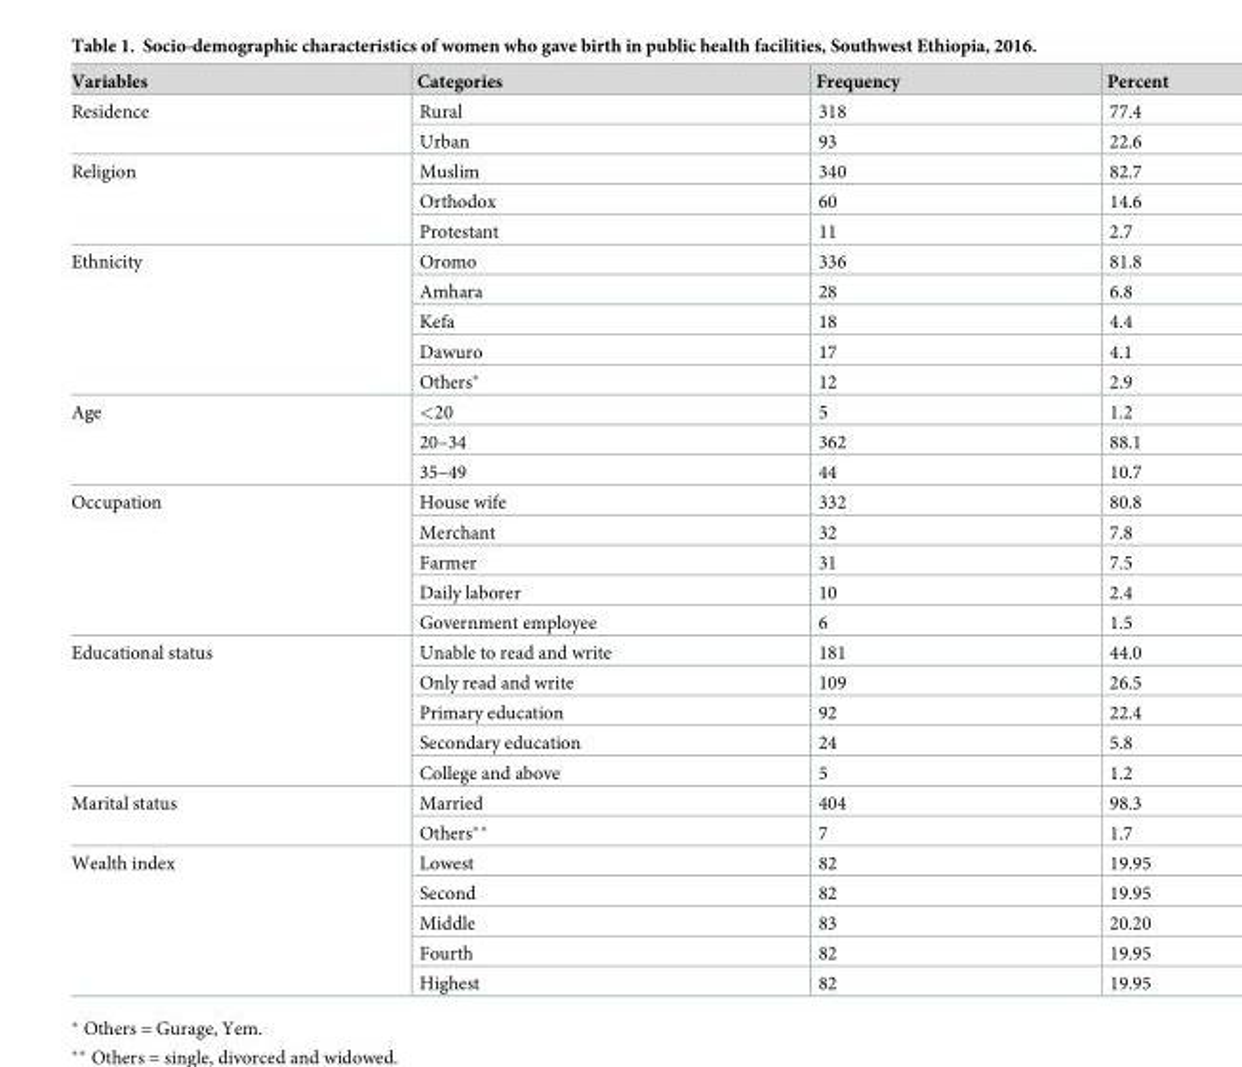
<table><thead><tr><td>Variables</td><td>Categories</td><td>Frequency</td><td>Percent</td></tr></thead><tbody><tr><td rowspan="2">Residence</td><td>Rural</td><td>318</td><td>77.4</td></tr><tr><td>Urban</td><td>93</td><td>22.6</td></tr><tr><td rowspan="3">Religion</td><td>Muslim</td><td>340</td><td>82.7</td></tr><tr><td>Orthodox</td><td>60</td><td>14.6</td></tr><tr><td>Protestant</td><td>11</td><td>2.7</td></tr><tr><td rowspan="5">Ethnicity</td><td>Oromo</td><td>336</td><td>81.8</td></tr><tr><td>Amhara</td><td>28</td><td>6.8</td></tr><tr><td>Kefa</td><td>18</td><td>4.4</td></tr><tr><td>Dawuro</td><td>17</td><td>4.1</td></tr><tr><td>Others*</td><td>12</td><td>2.9</td></tr><tr><td rowspan="3">Age</td><td>&lt;20</td><td>5</td><td>1.2</td></tr><tr><td>20–34</td><td>362</td><td>88.1</td></tr><tr><td>35–49</td><td>44</td><td>10.7</td></tr><tr><td rowspan="5">Occupation</td><td>House wife</td><td>332</td><td>80.8</td></tr><tr><td>Merchant</td><td>32</td><td>7.8</td></tr><tr><td>Farmer</td><td>31</td><td>7.5</td></tr><tr><td>Daily laborer</td><td>10</td><td>2.4</td></tr><tr><td>Government employee</td><td>6</td><td>1.5</td></tr><tr><td rowspan="5">Educational status</td><td>Unable to read and write</td><td>181</td><td>44.0</td></tr><tr><td>Only read and write</td><td>109</td><td>26.5</td></tr><tr><td>Primary education</td><td>92</td><td>22.4</td></tr><tr><td>Secondary education</td><td>24</td><td>5.8</td></tr><tr><td>College and above</td><td>5</td><td>1.2</td></tr><tr><td rowspan="2">Marital status</td><td>Married</td><td>404</td><td>98.3</td></tr><tr><td>Others**</td><td>7</td><td>1.7</td></tr><tr><td rowspan="5">Wealth index</td><td>Lowest</td><td>82</td><td>19.95</td></tr><tr><td>Second</td><td>82</td><td>19.95</td></tr><tr><td>Middle</td><td>83</td><td>20.20</td></tr><tr><td>Fourth</td><td>82</td><td>19.95</td></tr><tr><td>Highest</td><td>82</td><td>19.95</td></tr></tbody></table>